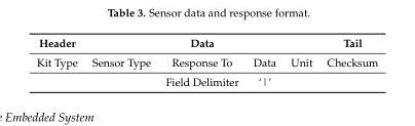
<table><thead><tr><td>Header</td><td></td><td>Data</td><td></td><td></td><td>Tail</td></tr></thead><tbody><tr><td rowspan="2">Kit Type</td><td>Sensor Type</td><td>Response To</td><td>Data</td><td>Unit</td><td>Checksum</td></tr><tr><td></td><td>Field Delimiter</td><td>‘|’</td><td></td><td></td></tr></tbody></table>